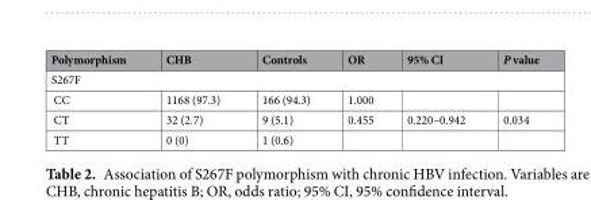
<table><thead><tr><td>Polymorphism</td><td>CHB</td><td>Controls</td><td>OR</td><td>95% CI</td><td>P value</td></tr></thead><tbody><tr><td colspan="6">S267F</td></tr><tr><td>CC</td><td>1168 (97.3)</td><td>166 (94.3)</td><td>1.000</td><td></td><td></td></tr><tr><td>CT</td><td>32 (2.7)</td><td>9 (5.1)</td><td>0.455</td><td>0.220–0.942</td><td>0.034</td></tr><tr><td>TT</td><td>0 (0)</td><td>1 (0.6)</td><td></td><td></td><td></td></tr></tbody></table>